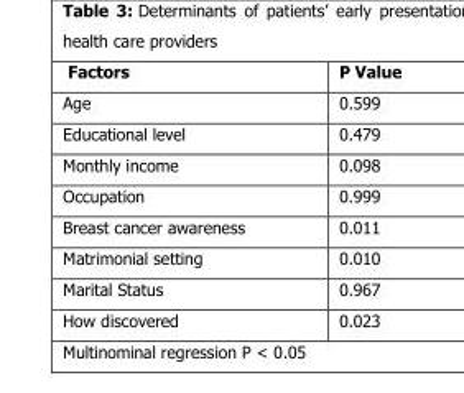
<table><thead><tr><td>Factors</td><td>P Value</td></tr></thead><tbody><tr><td>Age</td><td>0.599</td></tr><tr><td>Educational level</td><td>0.479</td></tr><tr><td>Monthly income</td><td>0.098</td></tr><tr><td>Occupation</td><td>0.999</td></tr><tr><td>Breast cancer awareness</td><td>0.011</td></tr><tr><td>Matrimonial setting</td><td>0.010</td></tr><tr><td>Marital Status</td><td>0.967</td></tr><tr><td>How discovered</td><td>0.023</td></tr></tbody></table>